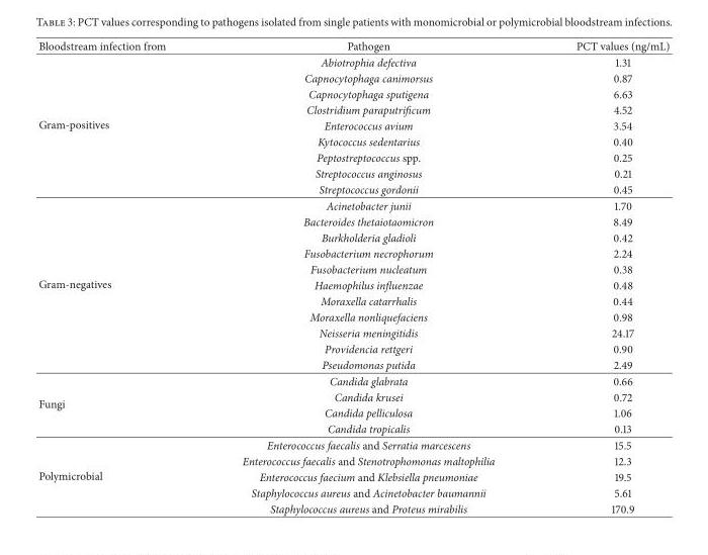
<table><thead><tr><td>Bloodstream infection from</td><td>Pathogen</td><td>PCT values (ng/mL)</td></tr></thead><tbody><tr><td rowspan="9">Gram-positives</td><td>Abiotrophia defectiva</td><td>1.31</td></tr><tr><td>Capnocytophaga canimorsus</td><td>0.87</td></tr><tr><td>Capnocytophaga sputigena</td><td>6.63</td></tr><tr><td>Clostridium paraputrificum</td><td>4.52</td></tr><tr><td>Enterococcus avium</td><td>3.54</td></tr><tr><td>Kytococcus sedentarius</td><td>0.40</td></tr><tr><td>Peptostreptococcus spp.</td><td>0.25</td></tr><tr><td>Streptococcus anginosus</td><td>0.21</td></tr><tr><td>Streptococcus gordonii</td><td>0.45</td></tr><tr><td rowspan="11">Gram-negatives</td><td>Acinetobacter junii</td><td>1.70</td></tr><tr><td>Bacteroides thetaiotaomicron</td><td>8.49</td></tr><tr><td>Burkholderia gladioli</td><td>0.42</td></tr><tr><td>Fusobacterium necrophorum</td><td>2.24</td></tr><tr><td>Fusobacterium nucleatum</td><td>0.38</td></tr><tr><td>Haemophilus influenzae</td><td>0.48</td></tr><tr><td>Moraxella catarrhalis</td><td>0.44</td></tr><tr><td>Moraxella nonliquefaciens</td><td>0.98</td></tr><tr><td>Neisseria meningitidis</td><td>24.17</td></tr><tr><td>Providencia rettgeri</td><td>0.90</td></tr><tr><td>Pseudomonas putida</td><td>2.49</td></tr><tr><td rowspan="4">Fungi</td><td>Candida glabrata</td><td>0.66</td></tr><tr><td>Candida krusei</td><td>0.72</td></tr><tr><td>Candida pelliculosa</td><td>1.06</td></tr><tr><td>Candida tropicalis</td><td>0.13</td></tr><tr><td rowspan="5">Polymicrobial</td><td>Enterococcus faecalis and Serratia marcescens</td><td>15.5</td></tr><tr><td>Enterococcus faecalis and Stenotrophomonas maltophilia</td><td>12.3</td></tr><tr><td>Enterococcus faecium and Klebsiella pneumoniae</td><td>19.5</td></tr><tr><td>Staphylococcus aureus and Acinetobacter baumannii</td><td>5.61</td></tr><tr><td>Staphylococcus aureus and Proteus mirabilis</td><td>170.9</td></tr></tbody></table>